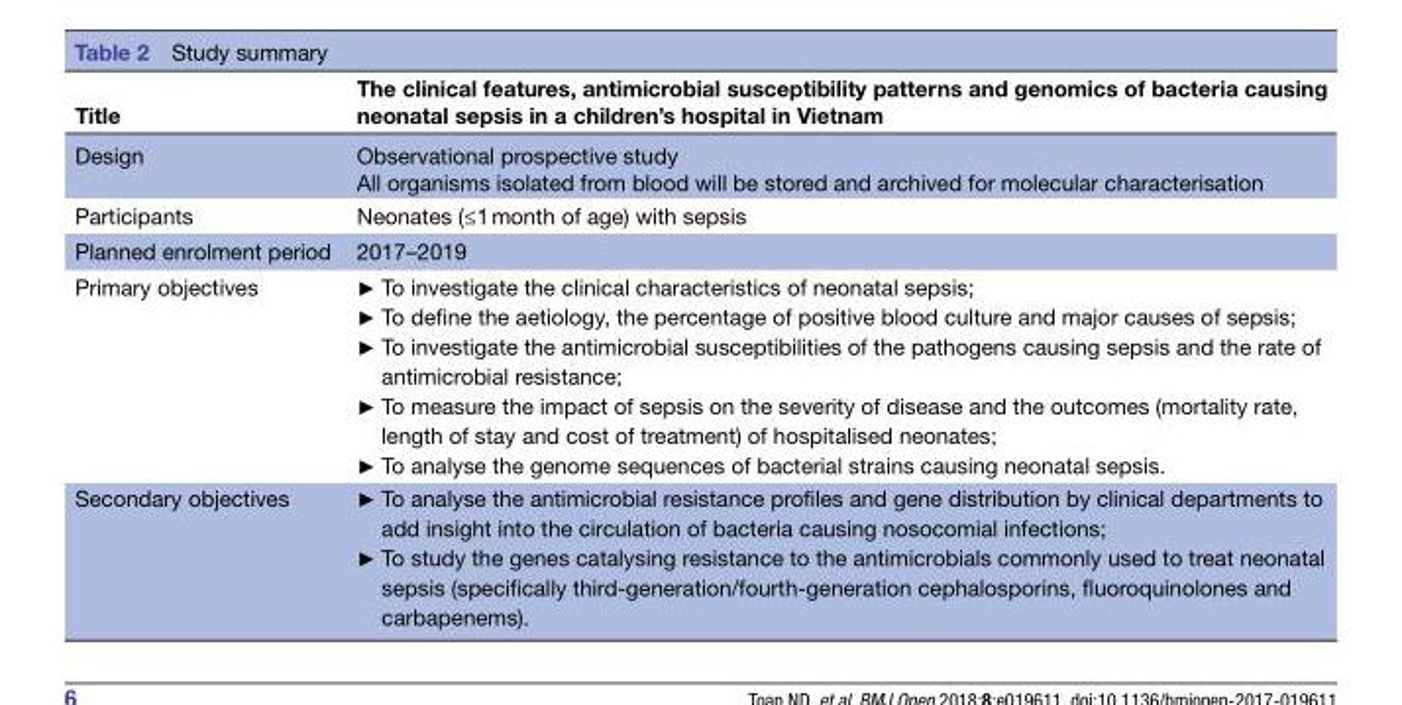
<table><thead><tr><td>Title</td><td>The clinical features, antimicrobial susceptibility patterns and genomics of bacteria causing neonatal sepsis in a children’s hospital in Vietnam</td></tr></thead><tbody><tr><td>Design</td><td>Observational prospective study All organisms isolated from blood will be stored and archived for molecular characterisation</td></tr><tr><td>Participants</td><td>Neonates (≤1 month of age) with sepsis</td></tr><tr><td>Planned enrolment period</td><td>2017–2019</td></tr><tr><td>Primary objectives</td><td>► To investigate the clinical characteristics of neonatal sepsis; ► To define the aetiology, the percentage of positive blood culture and major causes of sepsis; ► To investigate the antimicrobial susceptibilities of the pathogens causing sepsis and the rate of antimicrobial resistance; ► To measure the impact of sepsis on the severity of disease and the outcomes (mortality rate, length of stay and cost of treatment) of hospitalised neonates; ► To analyse the genome sequences of bacterial strains causing neonatal sepsis.</td></tr><tr><td>Secondary objectives</td><td>► To analyse the antimicrobial resistance profiles and gene distribution by clinical departments to add insight into the circulation of bacteria causing nosocomial infections; ► To study the genes catalysing resistance to the antimicrobials commonly used to treat neonatal sepsis (specifically third-generation/fourth-generation cephalosporins, fluoroquinolones and carbapenems).</td></tr></tbody></table>